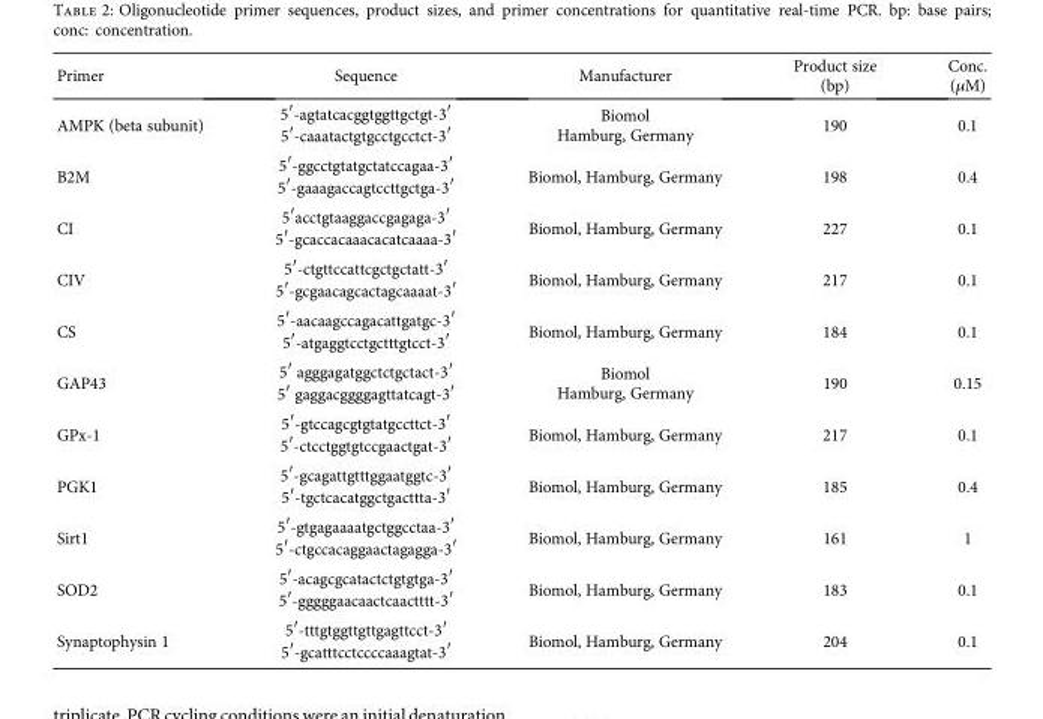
<table><thead><tr><td>Primer</td><td>Sequence</td><td>Manufacturer</td><td>Product size (bp)</td><td>Conc. (μM)</td></tr></thead><tbody><tr><td>AMPK (beta subunit)</td><td>5′-agtatcacggtggttgctgt-3′ 5′-caaatactgtgcctgcctct-3′</td><td>Biomol Hamburg, Germany</td><td>190</td><td>0.1</td></tr><tr><td>B2M</td><td>5′-ggcctgtatgctatccagaa-3′ 5′-gaaagaccagtccttgctga-3′</td><td>Biomol, Hamburg, Germany</td><td>198</td><td>0.4</td></tr><tr><td>CI</td><td>5′acctgtaaggaccgagaga-3′ 5′-gcaccacaaacacatcaaaa-3′</td><td>Biomol, Hamburg, Germany</td><td>227</td><td>0.1</td></tr><tr><td>CIV</td><td>5′-ctgttccattcgctgctatt-3′ 5′-gcgaacagcactagcaaaat-3′</td><td>Biomol, Hamburg, Germany</td><td>217</td><td>0.1</td></tr><tr><td>CS</td><td>5′-aacaagccagacattgatgc-3′ 5′-atgaggtcctgctttgtcct-3′</td><td>Biomol, Hamburg, Germany</td><td>184</td><td>0.1</td></tr><tr><td>GAP43</td><td>5′ agggagatggctctgctact-3′ 5′ gaggacggggagttatcagt-3′</td><td>Biomol Hamburg, Germany</td><td>190</td><td>0.15</td></tr><tr><td>GPx-1</td><td>5′-gtccagcgtgtatgccttct-3′ 5′-ctcctggtgtccgaactgat-3′</td><td>Biomol, Hamburg, Germany</td><td>217</td><td>0.1</td></tr><tr><td>PGK1</td><td>5′-gcagattgtttggaatggtc-3′ 5′-tgctcacatggctgacttta-3′</td><td>Biomol, Hamburg, Germany</td><td>185</td><td>0.4</td></tr><tr><td>Sirt1</td><td>5′-gtgagaaaatgctggcctaa-3′ 5′-ctgccacaggaactagagga-3′</td><td>Biomol, Hamburg, Germany</td><td>161</td><td>1</td></tr><tr><td>SOD2</td><td>5′-acagcgcatactctgtgtga-3′ 5′-gggggaacaactcaactttt-3′</td><td>Biomol, Hamburg, Germany</td><td>183</td><td>0.1</td></tr><tr><td>Synaptophysin 1</td><td>5′-tttgtggttgttgagttcct-3′ 5′-gcatttcctccccaaagtat-3′</td><td>Biomol, Hamburg, Germany</td><td>204</td><td>0.1</td></tr></tbody></table>